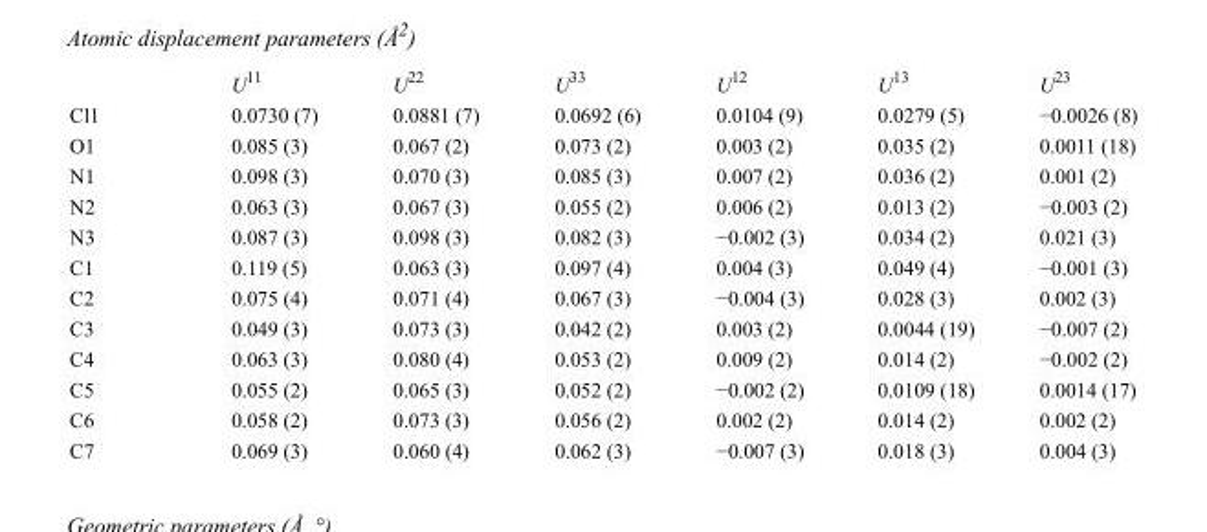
<table><thead><tr><td></td><td>U<sup>11</sup></td><td>U<sup>22</sup></td><td>U<sup>33</sup></td><td>U<sup>12</sup></td><td>U<sup>13</sup></td><td>U<sup>23</sup></td></tr></thead><tbody><tr><td>Cl1</td><td>0.0730 (7)</td><td>0.0881 (7)</td><td>0.0692 (6)</td><td>0.0104 (9)</td><td>0.0279 (5)</td><td>−0.0026 (8)</td></tr><tr><td>O1</td><td>0.085 (3)</td><td>0.067 (2)</td><td>0.073 (2)</td><td>0.003 (2)</td><td>0.035 (2)</td><td>0.0011 (18)</td></tr><tr><td>N1</td><td>0.098 (3)</td><td>0.070 (3)</td><td>0.085 (3)</td><td>0.007 (2)</td><td>0.036 (2)</td><td>0.001 (2)</td></tr><tr><td>N2</td><td>0.063 (3)</td><td>0.067 (3)</td><td>0.055 (2)</td><td>0.006 (2)</td><td>0.013 (2)</td><td>−0.003 (2)</td></tr><tr><td>N3</td><td>0.087 (3)</td><td>0.098 (3)</td><td>0.082 (3)</td><td>−0.002 (3)</td><td>0.034 (2)</td><td>0.021 (3)</td></tr><tr><td>C1</td><td>0.119 (5)</td><td>0.063 (3)</td><td>0.097 (4)</td><td>0.004 (3)</td><td>0.049 (4)</td><td>−0.001 (3)</td></tr><tr><td>C2</td><td>0.075 (4)</td><td>0.071 (4)</td><td>0.067 (3)</td><td>−0.004 (3)</td><td>0.028 (3)</td><td>0.002 (3)</td></tr><tr><td>C3</td><td>0.049 (3)</td><td>0.073 (3)</td><td>0.042 (2)</td><td>0.003 (2)</td><td>0.0044 (19)</td><td>−0.007 (2)</td></tr><tr><td>C4</td><td>0.063 (3)</td><td>0.080 (4)</td><td>0.053 (2)</td><td>0.009 (2)</td><td>0.014 (2)</td><td>−0.002 (2)</td></tr><tr><td>C5</td><td>0.055 (2)</td><td>0.065 (3)</td><td>0.052 (2)</td><td>−0.002 (2)</td><td>0.0109 (18)</td><td>0.0014 (17)</td></tr><tr><td>C6</td><td>0.058 (2)</td><td>0.073 (3)</td><td>0.056 (2)</td><td>0.002 (2)</td><td>0.014 (2)</td><td>0.002 (2)</td></tr><tr><td>C7</td><td>0.069 (3)</td><td>0.060 (4)</td><td>0.062 (3)</td><td>−0.007 (3)</td><td>0.018 (3)</td><td>0.004 (3)</td></tr></tbody></table>